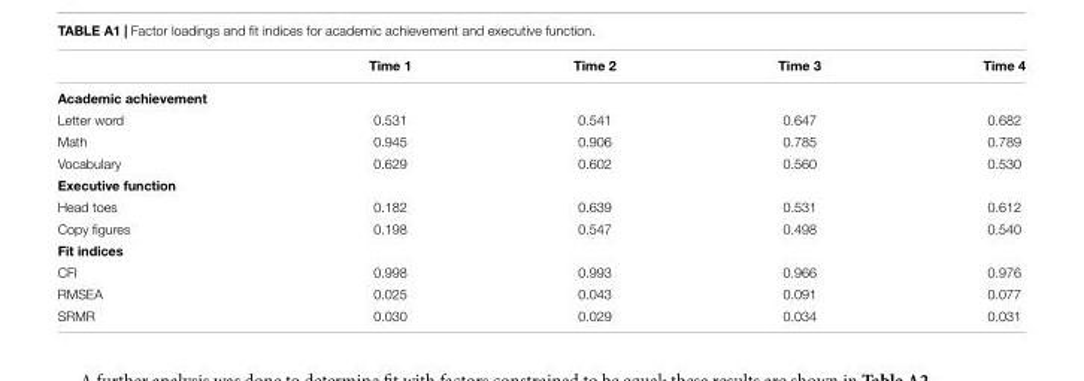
<table><thead><tr><td></td><td>Time 1</td><td>Time 2</td><td>Time 3</td><td>Time 4</td></tr></thead><tbody><tr><td colspan="5">Academic achievement</td></tr><tr><td>Letter word</td><td>0.531</td><td>0.541</td><td>0.647</td><td>0.682</td></tr><tr><td>Math</td><td>0.945</td><td>0.906</td><td>0.785</td><td>0.789</td></tr><tr><td>Vocabulary</td><td>0.629</td><td>0.602</td><td>0.560</td><td>0.530</td></tr><tr><td colspan="5">Executive function</td></tr><tr><td>Head toes</td><td>0.182</td><td>0.639</td><td>0.531</td><td>0.612</td></tr><tr><td>Copy figures</td><td>0.198</td><td>0.547</td><td>0.498</td><td>0.540</td></tr><tr><td colspan="5">Fit indices</td></tr><tr><td>CFI</td><td>0.998</td><td>0.993</td><td>0.966</td><td>0.976</td></tr><tr><td>RMSEA</td><td>0.025</td><td>0.043</td><td>0.091</td><td>0.077</td></tr><tr><td>SRMR</td><td>0.030</td><td>0.029</td><td>0.034</td><td>0.031</td></tr></tbody></table>